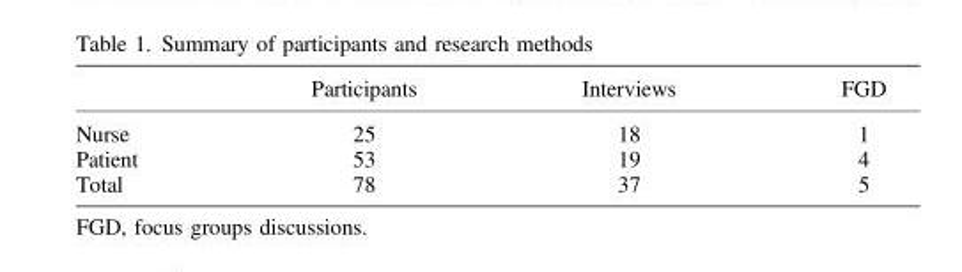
<table><thead><tr><td></td><td>Participants</td><td>Interviews</td><td>FGD</td></tr></thead><tbody><tr><td>Nurse</td><td>25</td><td>18</td><td>1</td></tr><tr><td>Patient</td><td>53</td><td>19</td><td>4</td></tr><tr><td>Total</td><td>78</td><td>37</td><td>5</td></tr></tbody></table>